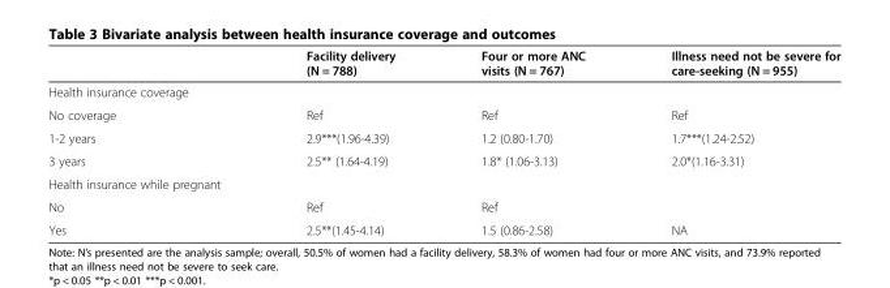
<table><thead><tr><td></td><td>Facility delivery (N = 788)</td><td>Four or more ANC visits (N = 767)</td><td>Illness need not be severe for care-seeking (N = 955)</td></tr></thead><tbody><tr><td colspan="4">Health insurance coverage</td></tr><tr><td>No coverage</td><td>Ref</td><td>Ref</td><td>Ref</td></tr><tr><td>1-2 years</td><td>2.9***(1.96-4.39)</td><td>1.2 (0.80-1.70)</td><td>1.7***(1.24-2.52)</td></tr><tr><td>3 years</td><td>2.5** (1.64-4.19)</td><td>1.8* (1.06-3.13)</td><td>2.0*(1.16-3.31)</td></tr><tr><td colspan="4">Health insurance while pregnant</td></tr><tr><td>No</td><td>Ref</td><td>Ref</td><td></td></tr><tr><td>Yes</td><td>2.5**(1.45-4.14)</td><td>1.5 (0.86-2.58)</td><td>NA</td></tr></tbody></table>